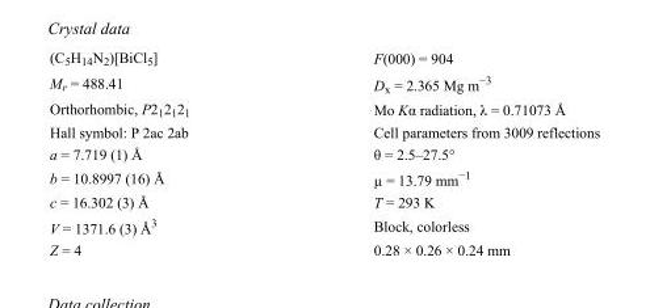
<table><tbody><tr><td>(C<sub>5</sub>H<sub>14</sub>N<sub>2</sub>)[BiCl<sub>5</sub>]</td><td>F(000) = 904</td></tr><tr><td>M<sub>r</sub> = 488.41</td><td>D<sub>x</sub> = 2.365 Mg m<sup>−3</sup></td></tr><tr><td>Orthorhombic, P2<sub>1</sub>2<sub>1</sub>2<sub>1</sub></td><td>Mo Kα radiation, λ = 0.71073 Å</td></tr><tr><td>Hall symbol: P 2ac 2ab</td><td>Cell parameters from 3009 reflections</td></tr><tr><td>a = 7.719 (1) Å</td><td>θ = 2.5–27.5°</td></tr><tr><td>b = 10.8997 (16) Å</td><td>µ = 13.79 mm<sup>−1</sup></td></tr><tr><td>c = 16.302 (3) Å</td><td>T = 293 K</td></tr><tr><td>V = 1371.6 (3) Å<sup>3</sup></td><td>Block, colorless</td></tr><tr><td>Z = 4</td><td>0.28 × 0.26 × 0.24 mm</td></tr></tbody></table>